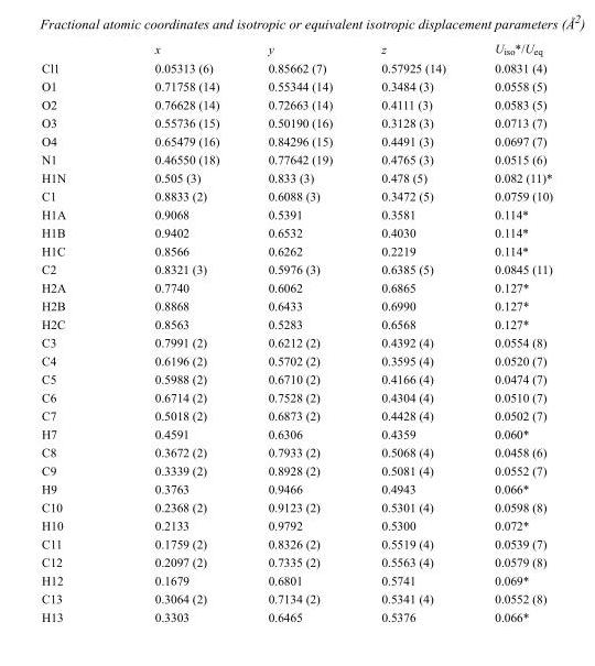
<table><thead><tr><td></td><td>x</td><td>y</td><td>z</td><td>U<sub>iso</sub>*/U<sub>eq</sub></td></tr></thead><tbody><tr><td>Cl1</td><td>0.05313 (6)</td><td>0.85662 (7)</td><td>0.57925 (14)</td><td>0.0831 (4)</td></tr><tr><td>O1</td><td>0.71758 (14)</td><td>0.55344 (14)</td><td>0.3484 (3)</td><td>0.0558 (5)</td></tr><tr><td>O2</td><td>0.76628 (14)</td><td>0.72663 (14)</td><td>0.4111 (3)</td><td>0.0583 (5)</td></tr><tr><td>O3</td><td>0.55736 (15)</td><td>0.50190 (16)</td><td>0.3128 (3)</td><td>0.0713 (7)</td></tr><tr><td>O4</td><td>0.65479 (16)</td><td>0.84296 (15)</td><td>0.4491 (3)</td><td>0.0697 (7)</td></tr><tr><td>N1</td><td>0.46550 (18)</td><td>0.77642 (19)</td><td>0.4765 (3)</td><td>0.0515 (6)</td></tr><tr><td>H1N</td><td>0.505 (3)</td><td>0.833 (3)</td><td>0.478 (5)</td><td>0.082 (11)*</td></tr><tr><td>C1</td><td>0.8833 (2)</td><td>0.6088 (3)</td><td>0.3472 (5)</td><td>0.0759 (10)</td></tr><tr><td>H1A</td><td>0.9068</td><td>0.5391</td><td>0.3581</td><td>0.114*</td></tr><tr><td>H1B</td><td>0.9402</td><td>0.6532</td><td>0.4030</td><td>0.114*</td></tr><tr><td>H1C</td><td>0.8566</td><td>0.6262</td><td>0.2219</td><td>0.114*</td></tr><tr><td>C2</td><td>0.8321 (3)</td><td>0.5976 (3)</td><td>0.6385 (5)</td><td>0.0845 (11)</td></tr><tr><td>H2A</td><td>0.7740</td><td>0.6062</td><td>0.6865</td><td>0.127*</td></tr><tr><td>H2B</td><td>0.8868</td><td>0.6433</td><td>0.6990</td><td>0.127*</td></tr><tr><td>H2C</td><td>0.8563</td><td>0.5283</td><td>0.6568</td><td>0.127*</td></tr><tr><td>C3</td><td>0.7991 (2)</td><td>0.6212 (2)</td><td>0.4392 (4)</td><td>0.0554 (8)</td></tr><tr><td>C4</td><td>0.6196 (2)</td><td>0.5702 (2)</td><td>0.3595 (4)</td><td>0.0520 (7)</td></tr><tr><td>C5</td><td>0.5988 (2)</td><td>0.6710 (2)</td><td>0.4166 (4)</td><td>0.0474 (7)</td></tr><tr><td>C6</td><td>0.6714 (2)</td><td>0.7528 (2)</td><td>0.4304 (4)</td><td>0.0510 (7)</td></tr><tr><td>C7</td><td>0.5018 (2)</td><td>0.6873 (2)</td><td>0.4428 (4)</td><td>0.0502 (7)</td></tr><tr><td>H7</td><td>0.4591</td><td>0.6306</td><td>0.4359</td><td>0.060*</td></tr><tr><td>C8</td><td>0.3672 (2)</td><td>0.7933 (2)</td><td>0.5068 (4)</td><td>0.0458 (6)</td></tr><tr><td>C9</td><td>0.3339 (2)</td><td>0.8928 (2)</td><td>0.5081 (4)</td><td>0.0552 (7)</td></tr><tr><td>H9</td><td>0.3763</td><td>0.9466</td><td>0.4943</td><td>0.066*</td></tr><tr><td>C10</td><td>0.2368 (2)</td><td>0.9123 (2)</td><td>0.5301 (4)</td><td>0.0598 (8)</td></tr><tr><td>H10</td><td>0.2133</td><td>0.9792</td><td>0.5300</td><td>0.072*</td></tr><tr><td>C11</td><td>0.1759 (2)</td><td>0.8326 (2)</td><td>0.5519 (4)</td><td>0.0539 (7)</td></tr><tr><td>C12</td><td>0.2097 (2)</td><td>0.7335 (2)</td><td>0.5563 (4)</td><td>0.0579 (8)</td></tr><tr><td>H12</td><td>0.1679</td><td>0.6801</td><td>0.5741</td><td>0.069*</td></tr><tr><td>C13</td><td>0.3064 (2)</td><td>0.7134 (2)</td><td>0.5341 (4)</td><td>0.0552 (8)</td></tr><tr><td>H13</td><td>0.3303</td><td>0.6465</td><td>0.5376</td><td>0.066*</td></tr></tbody></table>